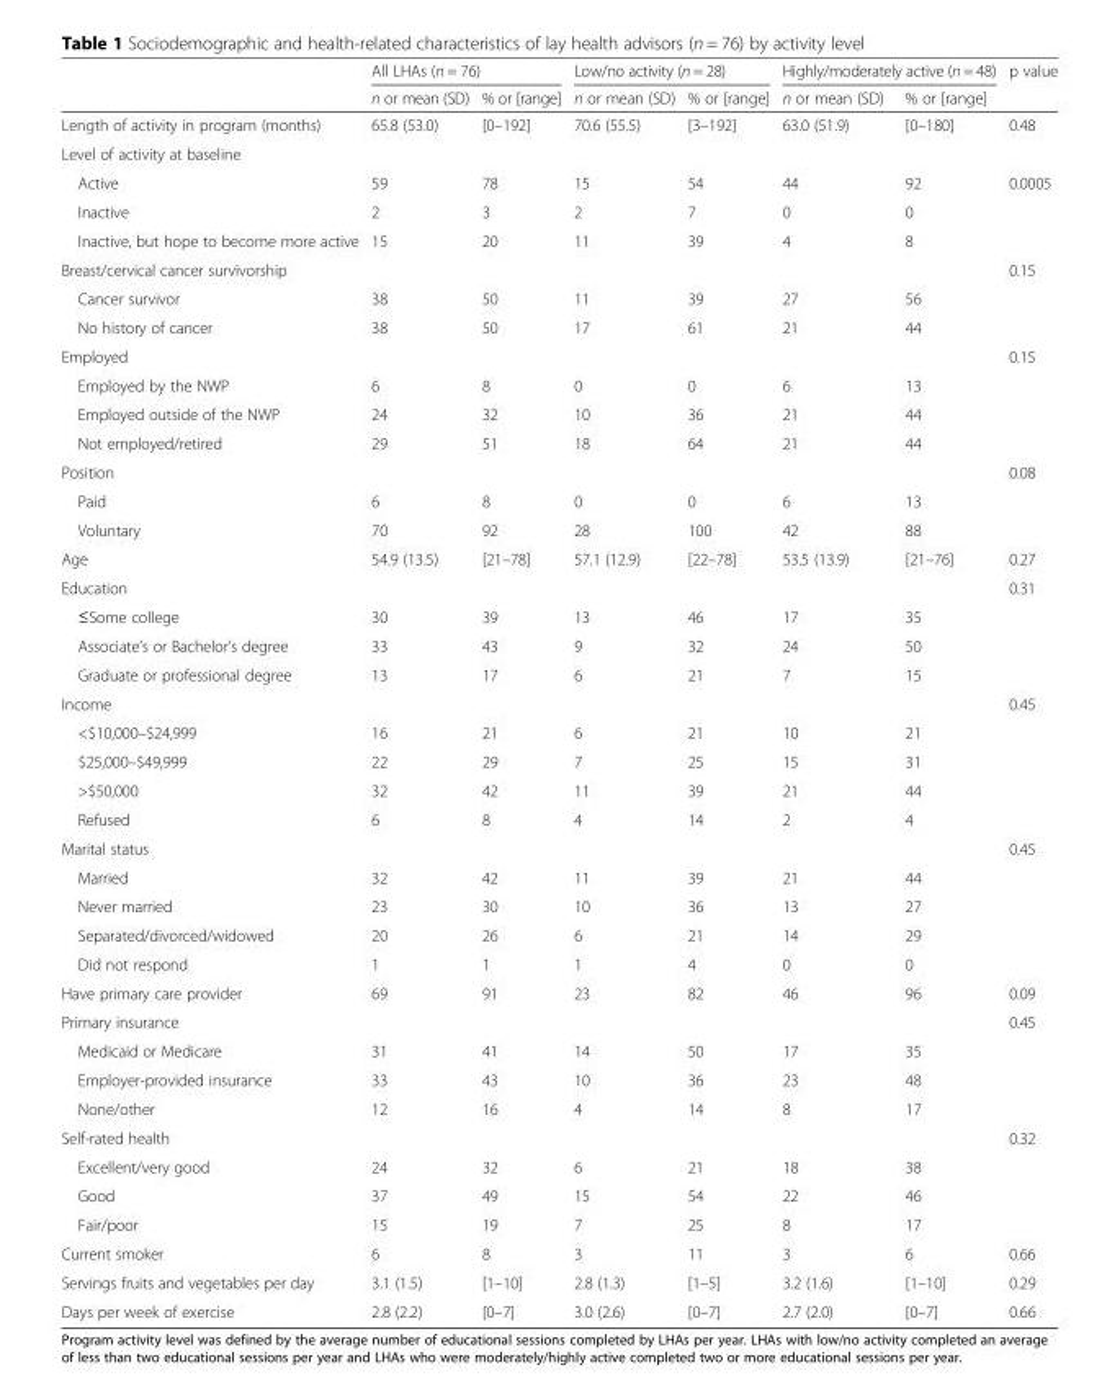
<table><thead><tr><td rowspan="2"></td><td colspan="2">All LHAs (n = 76)</td><td colspan="2">Low/no activity (n = 28)</td><td colspan="2">Highly/moderately active (n = 48)</td><td rowspan="2">p value</td></tr><tr><td>n or mean (SD)</td><td>% or [range]</td><td>n or mean (SD)</td><td>% or [range]</td><td>n or mean (SD)</td><td>% or [range]</td></tr></thead><tbody><tr><td>Length of activity in program (months)</td><td>65.8 (53.0)</td><td>[0–192]</td><td>70.6 (55.5)</td><td>[3–192]</td><td>63.0 (51.9)</td><td>[0–180]</td><td>0.48</td></tr><tr><td colspan="8">Level of activity at baseline</td></tr><tr><td>Active</td><td>59</td><td>78</td><td>15</td><td>54</td><td>44</td><td>92</td><td>0.0005</td></tr><tr><td>Inactive</td><td>2</td><td>3</td><td>2</td><td>7</td><td>0</td><td>0</td><td></td></tr><tr><td>Inactive, but hope to become more active</td><td>15</td><td>20</td><td>11</td><td>39</td><td>4</td><td>8</td><td></td></tr><tr><td>Breast/cervical cancer survivorship</td><td></td><td></td><td></td><td></td><td></td><td></td><td>0.15</td></tr><tr><td>Cancer survivor</td><td>38</td><td>50</td><td>11</td><td>39</td><td>27</td><td>56</td><td rowspan="2"></td></tr><tr><td>No history of cancer</td><td>38</td><td>50</td><td>17</td><td>61</td><td>21</td><td>44</td></tr><tr><td>Employed</td><td></td><td></td><td></td><td></td><td></td><td></td><td>0.15</td></tr><tr><td>Employed by the NWP</td><td>6</td><td>8</td><td>0</td><td>0</td><td>6</td><td>13</td><td rowspan="3"></td></tr><tr><td>Employed outside of the NWP</td><td>24</td><td>32</td><td>10</td><td>36</td><td>21</td><td>44</td></tr><tr><td>Not employed/retired</td><td>29</td><td>51</td><td>18</td><td>64</td><td>21</td><td>44</td></tr><tr><td>Position</td><td></td><td></td><td></td><td></td><td></td><td></td><td>0.08</td></tr><tr><td>Paid</td><td>6</td><td>8</td><td>0</td><td>0</td><td>6</td><td>13</td><td rowspan="2"></td></tr><tr><td>Voluntary</td><td>70</td><td>92</td><td>28</td><td>100</td><td>42</td><td>88</td></tr><tr><td>Age</td><td>54.9 (13.5)</td><td>[21–78]</td><td>57.1 (12.9)</td><td>[22–78]</td><td>53.5 (13.9)</td><td>[21–76]</td><td>0.27</td></tr><tr><td>Education</td><td></td><td></td><td></td><td></td><td></td><td></td><td>0.31</td></tr><tr><td>≤Some college</td><td>30</td><td>39</td><td>13</td><td>46</td><td>17</td><td>35</td><td rowspan="3"></td></tr><tr><td>Associate’s or Bachelor’s degree</td><td>33</td><td>43</td><td>9</td><td>32</td><td>24</td><td>50</td></tr><tr><td>Graduate or professional degree</td><td>13</td><td>17</td><td>6</td><td>21</td><td>7</td><td>15</td></tr><tr><td>Income</td><td></td><td></td><td></td><td></td><td></td><td></td><td>0.45</td></tr><tr><td>&lt;$10,000–$24,999</td><td>16</td><td>21</td><td>6</td><td>21</td><td>10</td><td>21</td><td rowspan="4"></td></tr><tr><td>$25,000–$49,999</td><td>22</td><td>29</td><td>7</td><td>25</td><td>15</td><td>31</td></tr><tr><td>&gt;$50,000</td><td>32</td><td>42</td><td>11</td><td>39</td><td>21</td><td>44</td></tr><tr><td>Refused</td><td>6</td><td>8</td><td>4</td><td>14</td><td>2</td><td>4</td></tr><tr><td>Marital status</td><td></td><td></td><td></td><td></td><td></td><td></td><td>0.45</td></tr><tr><td>Married</td><td>32</td><td>42</td><td>11</td><td>39</td><td>21</td><td>44</td><td rowspan="4"></td></tr><tr><td>Never married</td><td>23</td><td>30</td><td>10</td><td>36</td><td>13</td><td>27</td></tr><tr><td>Separated/divorced/widowed</td><td>20</td><td>26</td><td>6</td><td>21</td><td>14</td><td>29</td></tr><tr><td>Did not respond</td><td>1</td><td>1</td><td>1</td><td>4</td><td>0</td><td>0</td></tr><tr><td>Have primary care provider</td><td>69</td><td>91</td><td>23</td><td>82</td><td>46</td><td>96</td><td>0.09</td></tr><tr><td>Primary insurance</td><td></td><td></td><td></td><td></td><td></td><td></td><td>0.45</td></tr><tr><td>Medicaid or Medicare</td><td>31</td><td>41</td><td>14</td><td>50</td><td>17</td><td>35</td><td rowspan="3"></td></tr><tr><td>Employer-provided insurance</td><td>33</td><td>43</td><td>10</td><td>36</td><td>23</td><td>48</td></tr><tr><td>None/other</td><td>12</td><td>16</td><td>4</td><td>14</td><td>8</td><td>17</td></tr><tr><td>Self-rated health</td><td></td><td></td><td></td><td></td><td></td><td></td><td>0.32</td></tr><tr><td>Excellent/very good</td><td>24</td><td>32</td><td>6</td><td>21</td><td>18</td><td>38</td><td rowspan="3"></td></tr><tr><td>Good</td><td>37</td><td>49</td><td>15</td><td>54</td><td>22</td><td>46</td></tr><tr><td>Fair/poor</td><td>15</td><td>19</td><td>7</td><td>25</td><td>8</td><td>17</td></tr><tr><td>Current smoker</td><td>6</td><td>8</td><td>3</td><td>11</td><td>3</td><td>6</td><td>0.66</td></tr><tr><td>Servings fruits and vegetables per day</td><td>3.1 (1.5)</td><td>[1–10]</td><td>2.8 (1.3)</td><td>[1–5]</td><td>3.2 (1.6)</td><td>[1–10]</td><td>0.29</td></tr><tr><td>Days per week of exercise</td><td>2.8 (2.2)</td><td>[0–7]</td><td>3.0 (2.6)</td><td>[0–7]</td><td>2.7 (2.0)</td><td>[0–7]</td><td>0.66</td></tr></tbody></table>